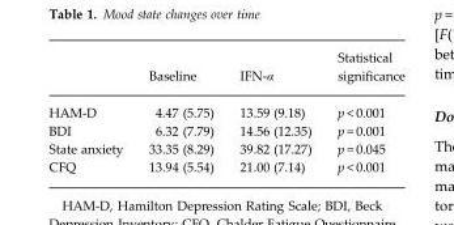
<table><thead><tr><td></td><td>Baseline</td><td>IFN-α</td><td>Statistical significance</td></tr></thead><tbody><tr><td>HAM-D</td><td>4.47 (5.75)</td><td>13.59 (9.18)</td><td>p &lt; 0.001</td></tr><tr><td>BDI</td><td>6.32 (7.79)</td><td>14.56 (12.35)</td><td>p = 0.001</td></tr><tr><td>State anxiety</td><td>33.35 (8.29)</td><td>39.82 (17.27)</td><td>p = 0.045</td></tr><tr><td>CFQ</td><td>13.94 (5.54)</td><td>21.00 (7.14)</td><td>p &lt; 0.001</td></tr></tbody></table>